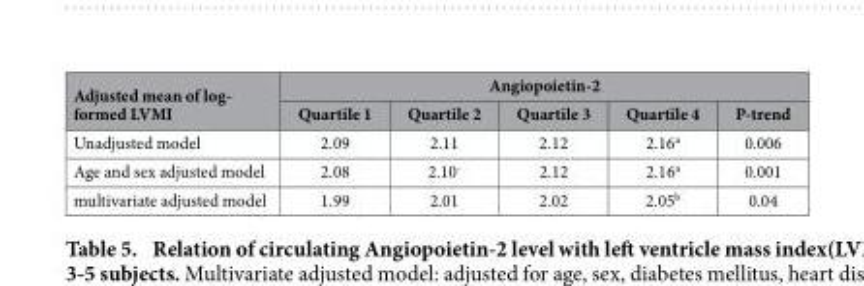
<table><thead><tr><td rowspan="2">Adjusted mean of log- formed LVMI</td><td colspan="5">Angiopoietin-2</td></tr><tr><td>Quartile 1</td><td>Quartile 2</td><td>Quartile 3</td><td>Quartile 4</td><td>P-trend</td></tr></thead><tbody><tr><td>Unadjusted model</td><td>2.09</td><td>2.11</td><td>2.12</td><td>2.16<sup>a</sup></td><td>0.006</td></tr><tr><td>Age and sex adjusted model</td><td>2.08</td><td>2.10<sup>-</sup></td><td>2.12</td><td>2.16<sup>a</sup></td><td>0.001</td></tr><tr><td>multivariate adjusted model</td><td>1.99</td><td>2.01</td><td>2.02</td><td>2.05<sup>b</sup></td><td>0.04</td></tr></tbody></table>